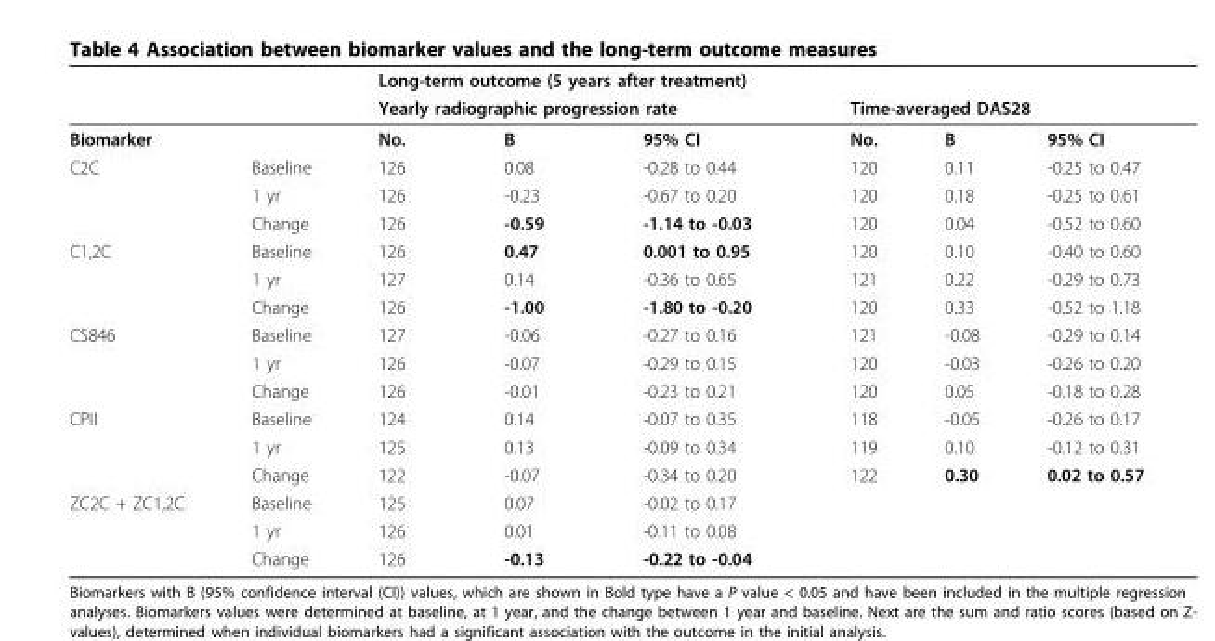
<table><thead><tr><td rowspan="3">Biomarker</td><td rowspan="3"></td><td colspan="6">Long-term outcome (5 years after treatment)</td></tr><tr><td colspan="3">Yearly radiographic progression rate</td><td colspan="3">Time-averaged DAS28</td></tr><tr><td>No.</td><td>B</td><td>95% CI</td><td>No.</td><td>B</td><td>95% CI</td></tr></thead><tbody><tr><td rowspan="3">C2C</td><td>Baseline</td><td>126</td><td>0.08</td><td>-0.28 to 0.44</td><td>120</td><td>0.11</td><td>-0.25 to 0.47</td></tr><tr><td>1 yr</td><td>126</td><td>-0.23</td><td>-0.67 to 0.20</td><td>120</td><td>0.18</td><td>-0.25 to 0.61</td></tr><tr><td>Change</td><td>126</td><td>-0.59</td><td>-1.14 to -0.03</td><td>120</td><td>0.04</td><td>-0.52 to 0.60</td></tr><tr><td rowspan="3">C1,2C</td><td>Baseline</td><td>126</td><td>0.47</td><td>0.001 to 0.95</td><td>120</td><td>0.10</td><td>-0.40 to 0.60</td></tr><tr><td>1 yr</td><td>127</td><td>0.14</td><td>-0.36 to 0.65</td><td>121</td><td>0.22</td><td>-0.29 to 0.73</td></tr><tr><td>Change</td><td>126</td><td>-1.00</td><td>-1.80 to -0.20</td><td>120</td><td>0.33</td><td>-0.52 to 1.18</td></tr><tr><td rowspan="3">CS846</td><td>Baseline</td><td>127</td><td>-0.06</td><td>-0.27 to 0.16</td><td>121</td><td>-0.08</td><td>-0.29 to 0.14</td></tr><tr><td>1 yr</td><td>126</td><td>-0.07</td><td>-0.29 to 0.15</td><td>120</td><td>-0.03</td><td>-0.26 to 0.20</td></tr><tr><td>Change</td><td>126</td><td>-0.01</td><td>-0.23 to 0.21</td><td>120</td><td>0.05</td><td>-0.18 to 0.28</td></tr><tr><td rowspan="3">CPII</td><td>Baseline</td><td>124</td><td>0.14</td><td>-0.07 to 0.35</td><td>118</td><td>-0.05</td><td>-0.26 to 0.17</td></tr><tr><td>1 yr</td><td>125</td><td>0.13</td><td>-0.09 to 0.34</td><td>119</td><td>0.10</td><td>-0.12 to 0.31</td></tr><tr><td>Change</td><td>122</td><td>-0.07</td><td>-0.34 to 0.20</td><td>122</td><td>0.30</td><td>0.02 to 0.57</td></tr><tr><td rowspan="3">ZC2C + ZC1,2C</td><td>Baseline</td><td>125</td><td>0.07</td><td>-0.02 to 0.17</td><td></td><td></td><td></td></tr><tr><td>1 yr</td><td>126</td><td>0.01</td><td>-0.11 to 0.08</td><td></td><td></td><td></td></tr><tr><td>Change</td><td>126</td><td>-0.13</td><td>-0.22 to -0.04</td><td></td><td></td><td></td></tr></tbody></table>